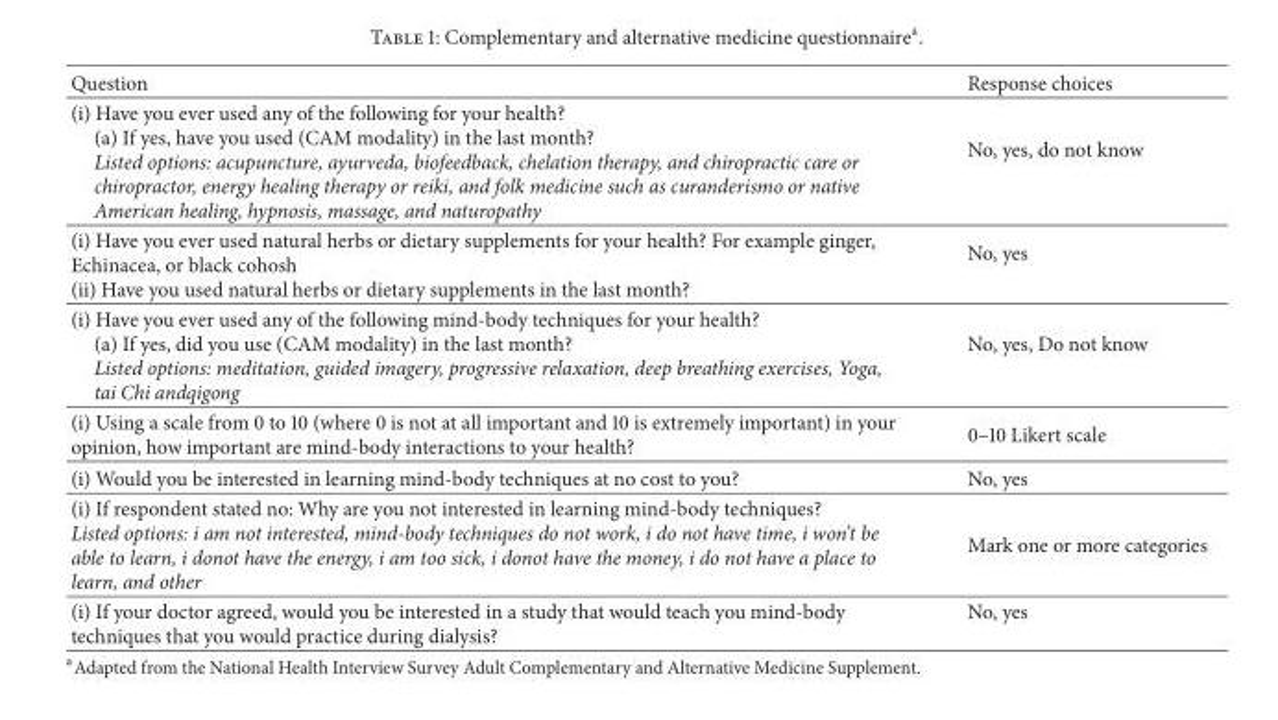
<table><thead><tr><td>Question</td><td>Response choices</td></tr></thead><tbody><tr><td>(i) Have you ever used any of the following for your health? (a) If yes, have you used (CAM modality) in the last month? Listed options: acupuncture, ayurveda, biofeedback, chelation therapy, and chiropractic care or chiropractor, energy healing therapy or reiki, and folk medicine such as curanderismo or native American healing, hypnosis, massage, and naturopathy</td><td>No, yes, do not know</td></tr><tr><td>(i) Have you ever used natural herbs or dietary supplements for your health? For example ginger, Echinacea, or black cohosh (ii) Have you used natural herbs or dietary supplements in the last month?</td><td>No, yes</td></tr><tr><td>(i) Have you ever used any of the following mind-body techniques for your health? (a) If yes, did you use (CAM modality) in the last month? Listed options: meditation, guided imagery, progressive relaxation, deep breathing exercises, Yoga, tai Chi andqigong</td><td>No, yes, Do not know</td></tr><tr><td>(i) Using a scale from 0 to 10 (where 0 is not at all important and 10 is extremely important) in your opinion, how important are mind-body interactions to your health?</td><td>0–10 Likert scale</td></tr><tr><td>(i) Would you be interested in learning mind-body techniques at no cost to you?</td><td>No, yes</td></tr><tr><td>(i) If respondent stated no: Why are you not interested in learning mind-body techniques? Listed options: i am not interested, mind-body techniques do not work, i do not have time, i won’t be able to learn, i donot have the energy, i am too sick, i donot have the money, i do not have a place to learn, and other</td><td>Mark one or more categories</td></tr><tr><td>(i) If your doctor agreed, would you be interested in a study that would teach you mind-body techniques that you would practice during dialysis?</td><td>No, yes</td></tr></tbody></table>